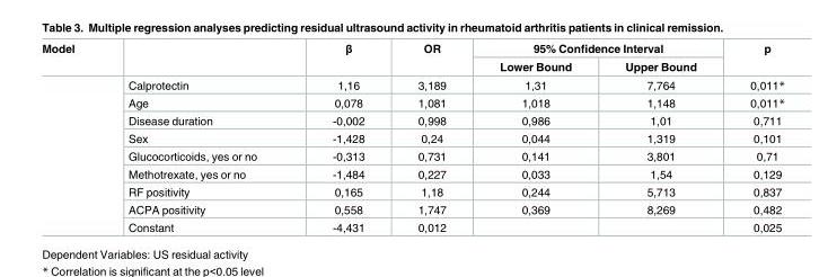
<table><thead><tr><td rowspan="2">Model</td><td rowspan="2"></td><td rowspan="2">β</td><td rowspan="2">OR</td><td colspan="2">95% Confidence Interval</td><td rowspan="2">p</td></tr><tr><td>Lower Bound</td><td>Upper Bound</td></tr></thead><tbody><tr><td rowspan="9"></td><td>Calprotectin</td><td>1,16</td><td>3,189</td><td>1,31</td><td>7,764</td><td>0,011*</td></tr><tr><td>Age</td><td>0,078</td><td>1,081</td><td>1,018</td><td>1,148</td><td>0,011*</td></tr><tr><td>Disease duration</td><td>-0,002</td><td>0,998</td><td>0,986</td><td>1,01</td><td>0,711</td></tr><tr><td>Sex</td><td>-1,428</td><td>0,24</td><td>0,044</td><td>1,319</td><td>0,101</td></tr><tr><td>Glucocorticoids, yes or no</td><td>-0,313</td><td>0,731</td><td>0,141</td><td>3,801</td><td>0,71</td></tr><tr><td>Methotrexate, yes or no</td><td>-1,484</td><td>0,227</td><td>0,033</td><td>1,54</td><td>0,129</td></tr><tr><td>RF positivity</td><td>0,165</td><td>1,18</td><td>0,244</td><td>5,713</td><td>0,837</td></tr><tr><td>ACPA positivity</td><td>0,558</td><td>1,747</td><td>0,369</td><td>8,269</td><td>0,482</td></tr><tr><td>Constant</td><td>-4,431</td><td>0,012</td><td></td><td></td><td>0,025</td></tr></tbody></table>